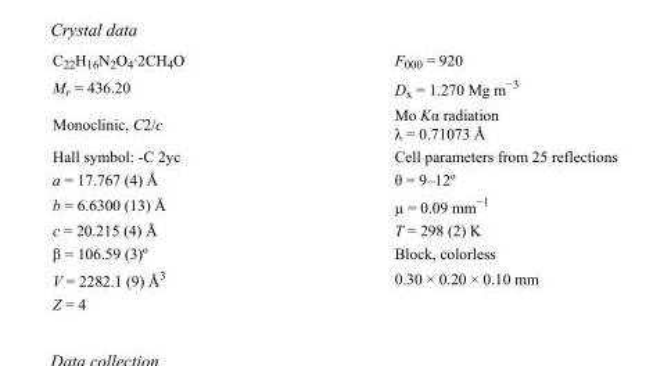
<table><tbody><tr><td>C<sub>22</sub>H<sub>16</sub>N<sub>2</sub>O<sub>4</sub>·2CH<sub>4</sub>O</td><td>F<sub>000</sub> = 920</td></tr><tr><td>M<sub>r</sub> = 436.20</td><td>D<sub>x</sub> = 1.270 Mg m<sup>−3</sup></td></tr><tr><td>Monoclinic, C2/c</td><td>Mo Kα radiation λ = 0.71073 Å</td></tr><tr><td>Hall symbol: -C 2yc</td><td>Cell parameters from 25 reflections</td></tr><tr><td>a = 17.767 (4) Å</td><td>θ = 9–12º</td></tr><tr><td>b = 6.6300 (13) Å</td><td>µ = 0.09 mm<sup>−1</sup></td></tr><tr><td>c = 20.215 (4) Å</td><td>T = 298 (2) K</td></tr><tr><td>β = 106.59 (3)º</td><td>Block, colorless</td></tr><tr><td>V = 2282.1 (9) Å<sup>3</sup></td><td>0.30 × 0.20 × 0.10 mm</td></tr><tr><td>Z = 4</td><td></td></tr></tbody></table>